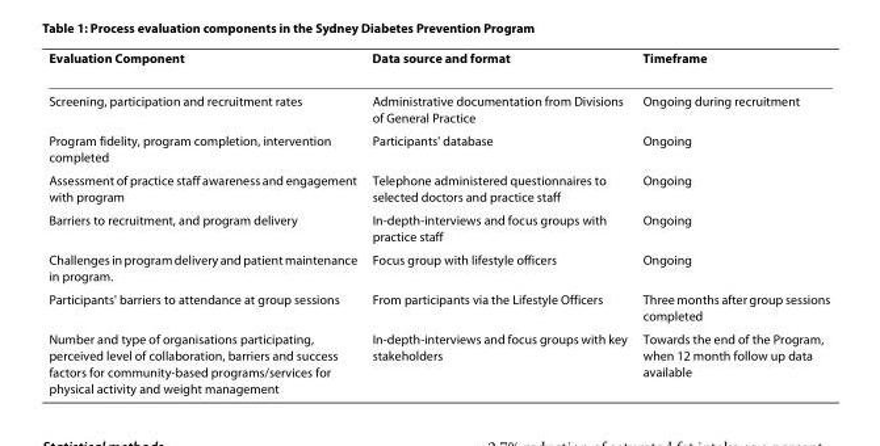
<table><thead><tr><td>Evaluation Component</td><td>Data source and format</td><td>Timeframe</td></tr></thead><tbody><tr><td>Screening, participation and recruitment rates</td><td>Administrative documentation from Divisions of General Practice</td><td>Ongoing during recruitment</td></tr><tr><td>Program fidelity, program completion, intervention completed</td><td>Participants&#x27; database</td><td>Ongoing</td></tr><tr><td>Assessment of practice staff awareness and engagement with program</td><td>Telephone administered questionnaires to selected doctors and practice staff</td><td>Ongoing</td></tr><tr><td>Barriers to recruitment, and program delivery</td><td>In-depth-interviews and focus groups with practice staff</td><td>Ongoing</td></tr><tr><td>Challenges in program delivery and patient maintenance in program.</td><td>Focus group with lifestyle officers</td><td>Ongoing</td></tr><tr><td>Participants&#x27; barriers to attendance at group sessions</td><td>From participants via the Lifestyle Officers</td><td>Three months after group sessions completed</td></tr><tr><td>Number and type of organisations participating, perceived level of collaboration, barriers and success factors for community-based programs/services for physical activity and weight management</td><td>In-depth-interviews and focus groups with key stakeholders</td><td>Towards the end of the Program, when 12 month follow up data available</td></tr></tbody></table>